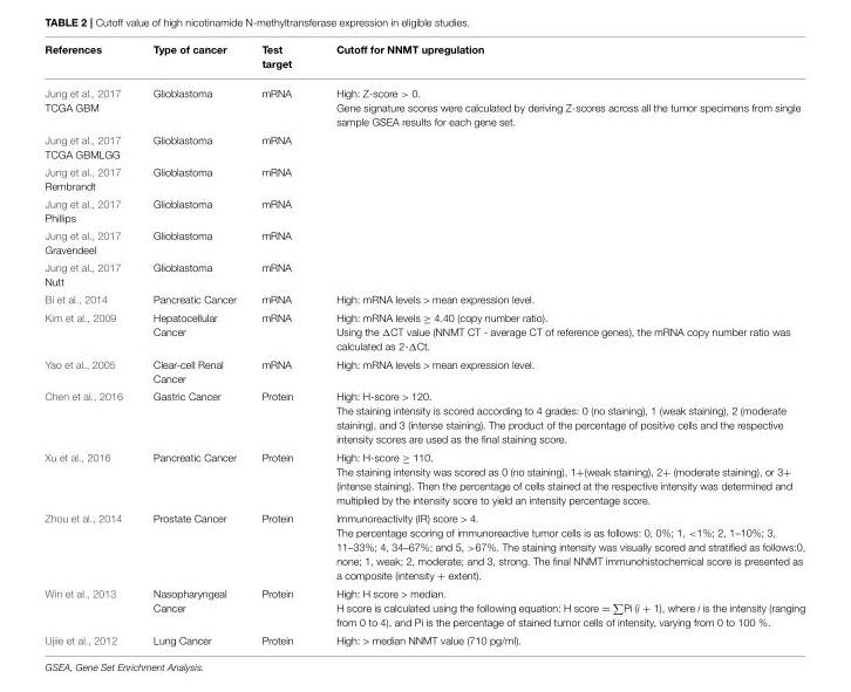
<table><thead><tr><td>References</td><td>Type of cancer</td><td>Test target</td><td>Cutoff for NNMT upregulation</td></tr></thead><tbody><tr><td>Jung et al., 2017 TCGA GBM</td><td>Glioblastoma</td><td>mRNA</td><td>High: Z-score &gt; 0. Gene signature scores were calculated by deriving Z-scores across all the tumor specimens from single sample GSEA results for each gene set.</td></tr><tr><td>Jung et al., 2017 TCGA GBMLGG</td><td>Glioblastoma</td><td>mRNA</td><td></td></tr><tr><td>Jung et al., 2017 Rembrandt</td><td>Glioblastoma</td><td>mRNA</td><td></td></tr><tr><td>Jung et al., 2017 Phillips</td><td>Glioblastoma</td><td>mRNA</td><td></td></tr><tr><td>Jung et al., 2017 Gravendeel</td><td>Glioblastoma</td><td>mRNA</td><td></td></tr><tr><td>Jung et al., 2017 Nutt</td><td>Glioblastoma</td><td>mRNA</td><td></td></tr><tr><td>Bi et al., 2014</td><td>Pancreatic Cancer</td><td>mRNA</td><td>High: mRNA levels &gt; mean expression level.</td></tr><tr><td>Kim et al., 2009</td><td>Hepatocellular Cancer</td><td>mRNA</td><td>High: mRNA levels ≥ 4.40 (copy number ratio). Using the ΔCT value (NNMT CT - average CT of reference genes), the mRNA copy number ratio was calculated as 2-ΔCt.</td></tr><tr><td>Yao et al., 2005</td><td>Clear-cell Renal Cancer</td><td>mRNA</td><td>High: mRNA levels &gt; mean expression level.</td></tr><tr><td>Chen et al., 2016</td><td>Gastric Cancer</td><td>Protein</td><td>High: H-score &gt; 120. The staining intensity is scored according to 4 grades: 0 (no staining), 1 (weak staining), 2 (moderate staining), and 3 (intense staining). The product of the percentage of positive cells and the respective intensity scores are used as the final staining score.</td></tr><tr><td>Xu et al., 2016</td><td>Pancreatic Cancer</td><td>Protein</td><td>High: H-score ≥ 110. The staining intensity was scored as 0 (no staining), 1+(weak staining), 2+ (moderate staining), or 3+ (intense staining). Then the percentage of cells stained at the respective intensity was determined and multiplied by the intensity score to yield an intensity percentage score.</td></tr><tr><td>Zhou et al., 2014</td><td>Prostate Cancer</td><td>Protein</td><td>Immunoreactivity (IR) score &gt; 4. The percentage scoring of immunoreactive tumor cells is as follows: 0, 0%; 1, &lt;1%; 2, 1–10%; 3, 11–33%; 4, 34–67%; and 5, &gt;67%. The staining intensity was visually scored and stratified as follows:0, none; 1, weak; 2, moderate; and 3, strong. The final NNMT immunohistochemical score is presented as a composite (intensity + extent).</td></tr><tr><td>Win et al., 2013</td><td>Nasopharyngeal Cancer</td><td>Protein</td><td>High: H score &gt; median. H score is calculated using the following equation: H score = ∑Pi (i + 1), where i is the intensity (ranging from 0 to 4), and Pi is the percentage of stained tumor cells of intensity, varying from 0 to 100 %.</td></tr><tr><td>Ujiie et al., 2012</td><td>Lung Cancer</td><td>Protein</td><td>High: &gt; median NNMT value (710 pg/ml).</td></tr></tbody></table>